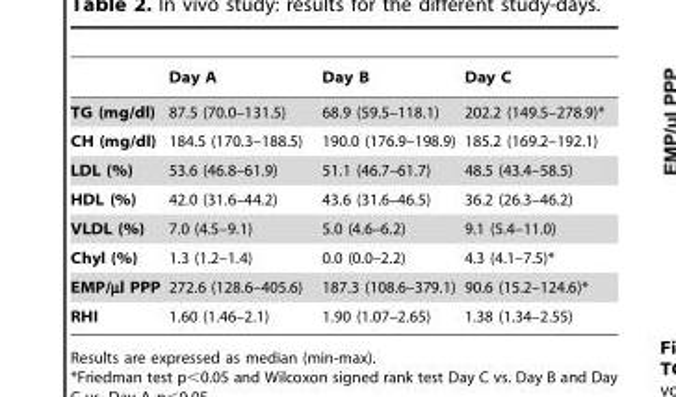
<table><thead><tr><td></td><td>Day A</td><td>Day B</td><td>Day C</td></tr></thead><tbody><tr><td>TG (mg/dl)</td><td>87.5 (70.0–131.5)</td><td>68.9 (59.5–118.1)</td><td>202.2 (149.5–278.9)*</td></tr><tr><td>CH (mg/dl)</td><td>184.5 (170.3–188.5)</td><td>190.0 (176.9–198.9)</td><td>185.2 (169.2–192.1)</td></tr><tr><td>LDL (%)</td><td>53.6 (46.8–61.9)</td><td>51.1 (46.7–61.7)</td><td>48.5 (43.4–58.5)</td></tr><tr><td>HDL (%)</td><td>42.0 (31.6–44.2)</td><td>43.6 (31.6–46.5)</td><td>36.2 (26.3–46.2)</td></tr><tr><td>VLDL (%)</td><td>7.0 (4.5–9.1)</td><td>5.0 (4.6–6.2)</td><td>9.1 (5.4–11.0)</td></tr><tr><td>Chyl (%)</td><td>1.3 (1.2–1.4)</td><td>0.0 (0.0–2.2)</td><td>4.3 (4.1–7.5)*</td></tr><tr><td>EMP/µl PPP</td><td>272.6 (128.6–405.6)</td><td>187.3 (108.6–379.1)</td><td>90.6 (15.2–124.6)*</td></tr><tr><td>RHI</td><td>1.60 (1.46–2.1)</td><td>1.90 (1.07–2.65)</td><td>1.38 (1.34–2.55)</td></tr></tbody></table>